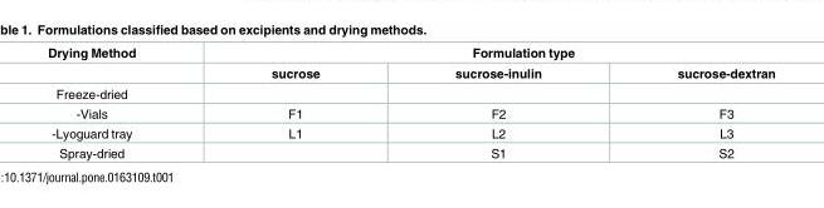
<table><thead><tr><td rowspan="2">Drying Method</td><td colspan="3">Formulation type</td></tr><tr><td>sucrose</td><td>sucrose-inulin</td><td>sucrose-dextran</td></tr></thead><tbody><tr><td colspan="4">Freeze-dried</td></tr><tr><td>-Vials</td><td>F1</td><td>F2</td><td>F3</td></tr><tr><td>-Lyoguard tray</td><td>L1</td><td>L2</td><td>L3</td></tr><tr><td>Spray-dried</td><td></td><td>S1</td><td>S2</td></tr></tbody></table>